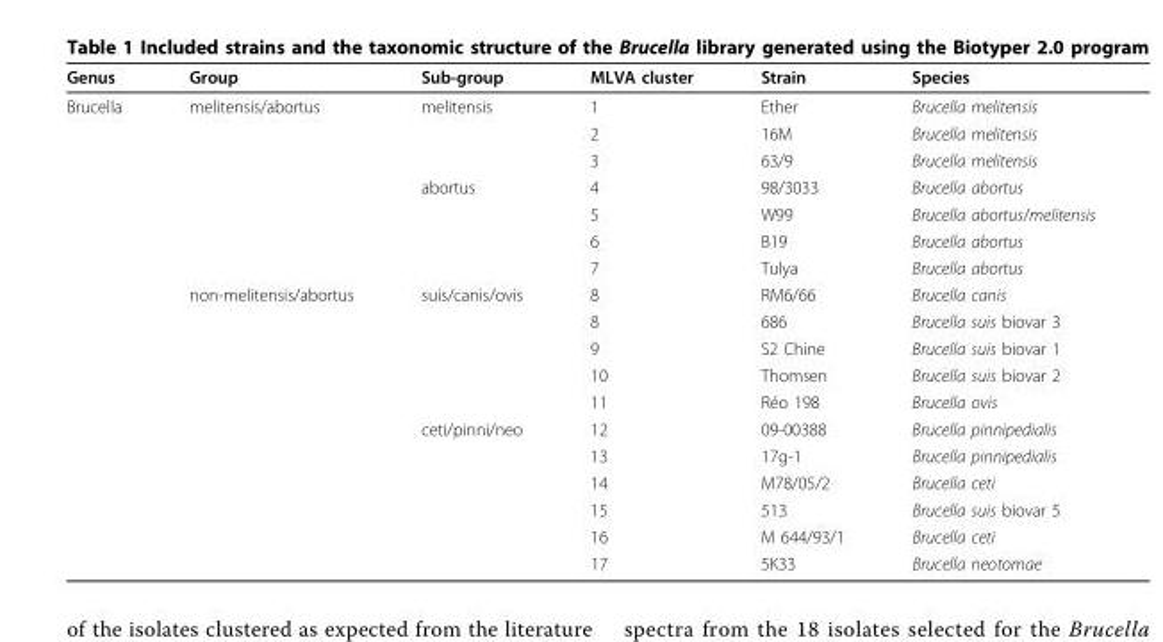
<table><thead><tr><td>Genus</td><td>Group</td><td>Sub-group</td><td>MLVA cluster</td><td>Strain</td><td>Species</td></tr></thead><tbody><tr><td rowspan="18">Brucella</td><td>melitensis/abortus</td><td>melitensis</td><td>1</td><td>Ether</td><td>Brucella melitensis</td></tr><tr><td></td><td></td><td>2</td><td>16M</td><td>Brucella melitensis</td></tr><tr><td></td><td></td><td>3</td><td>63/9</td><td>Brucella melitensis</td></tr><tr><td></td><td>abortus</td><td>4</td><td>98/3033</td><td>Brucella abortus</td></tr><tr><td></td><td></td><td>5</td><td>W99</td><td>Brucella abortus/melitensis</td></tr><tr><td></td><td></td><td>6</td><td>B19</td><td>Brucella abortus</td></tr><tr><td></td><td></td><td>7</td><td>Tulya</td><td>Brucella abortus</td></tr><tr><td>non-melitensis/abortus</td><td>suis/canis/ovis</td><td>8</td><td>RM6/66</td><td>Brucella canis</td></tr><tr><td></td><td></td><td>8</td><td>686</td><td>Brucella suis biovar 3</td></tr><tr><td></td><td></td><td>9</td><td>S2 Chine</td><td>Brucella suis biovar 1</td></tr><tr><td></td><td></td><td>10</td><td>Thomsen</td><td>Brucella suis biovar 2</td></tr><tr><td></td><td></td><td>11</td><td>Réo 198</td><td>Brucella ovis</td></tr><tr><td></td><td>ceti/pinni/neo</td><td>12</td><td>09-00388</td><td>Brucella pinnipedialis</td></tr><tr><td></td><td></td><td>13</td><td>17g-1</td><td>Brucella pinnipedialis</td></tr><tr><td></td><td></td><td>14</td><td>M78/05/2</td><td>Brucella ceti</td></tr><tr><td></td><td></td><td>15</td><td>513</td><td>Brucella suis biovar 5</td></tr><tr><td></td><td></td><td>16</td><td>M 644/93/1</td><td>Brucella ceti</td></tr><tr><td></td><td></td><td>17</td><td>5K33</td><td>Brucella neotomae</td></tr></tbody></table>